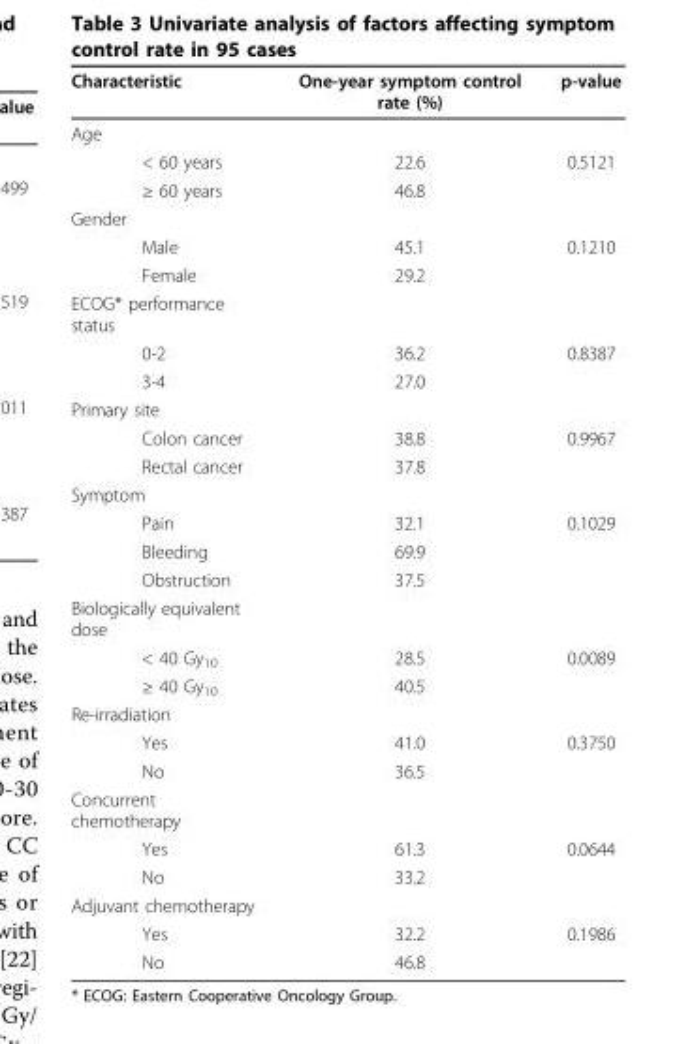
<table><thead><tr><td>Characteristic</td><td>One-year symptom control rate (%)</td><td>p-value</td></tr></thead><tbody><tr><td colspan="3">Age</td></tr><tr><td>&lt; 60 years</td><td>22.6</td><td>0.5121</td></tr><tr><td>≥ 60 years</td><td>46.8</td><td></td></tr><tr><td colspan="3">Gender</td></tr><tr><td>Male</td><td>45.1</td><td>0.1210</td></tr><tr><td>Female</td><td>29.2</td><td></td></tr><tr><td colspan="3">ECOG* performance status</td></tr><tr><td>0-2</td><td>36.2</td><td>0.8387</td></tr><tr><td>3-4</td><td>27.0</td><td></td></tr><tr><td colspan="3">Primary site</td></tr><tr><td>Colon cancer</td><td>38.8</td><td>0.9967</td></tr><tr><td>Rectal cancer</td><td>37.8</td><td></td></tr><tr><td colspan="3">Symptom</td></tr><tr><td>Pain</td><td>32.1</td><td>0.1029</td></tr><tr><td>Bleeding</td><td>69.9</td><td></td></tr><tr><td>Obstruction</td><td>37.5</td><td></td></tr><tr><td colspan="3">Biologically equivalent dose</td></tr><tr><td>&lt; 40 Gy<sub>10</sub></td><td>28.5</td><td>0.0089</td></tr><tr><td>≥ 40 Gy<sub>10</sub></td><td>40.5</td><td></td></tr><tr><td colspan="3">Re-irradiation</td></tr><tr><td>Yes</td><td>41.0</td><td>0.3750</td></tr><tr><td>No</td><td>36.5</td><td></td></tr><tr><td colspan="3">Concurrent chemotherapy</td></tr><tr><td>Yes</td><td>61.3</td><td>0.0644</td></tr><tr><td>No</td><td>33.2</td><td></td></tr><tr><td colspan="3">Adjuvant chemotherapy</td></tr><tr><td>Yes</td><td>32.2</td><td>0.1986</td></tr><tr><td>No</td><td>46.8</td><td></td></tr></tbody></table>